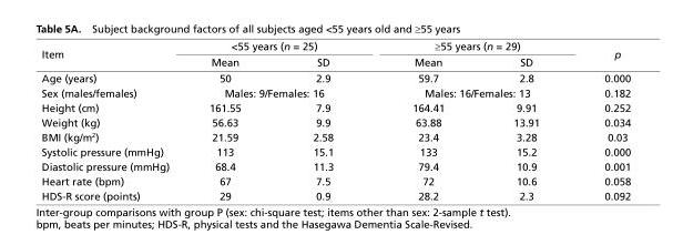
<table><thead><tr><td rowspan="2">Item</td><td colspan="2">&lt;55 years (n = 25)</td><td colspan="2">≥55 years (n = 29)</td><td rowspan="2">p</td></tr><tr><td>Mean</td><td>SD</td><td>Mean</td><td>SD</td></tr></thead><tbody><tr><td>Age (years)</td><td>50</td><td>2.9</td><td>59.7</td><td>2.8</td><td>0.000</td></tr><tr><td>Sex (males/females)</td><td colspan="2">Males: 9/Females: 16</td><td colspan="2">Males: 16/Females: 13</td><td>0.182</td></tr><tr><td>Height (cm)</td><td>161.55</td><td>7.9</td><td>164.41</td><td>9.91</td><td>0.252</td></tr><tr><td>Weight (kg)</td><td>56.63</td><td>9.9</td><td>63.88</td><td>13.91</td><td>0.034</td></tr><tr><td>BMI (kg/m<sup>2</sup>)</td><td>21.59</td><td>2.58</td><td>23.4</td><td>3.28</td><td>0.03</td></tr><tr><td>Systolic pressure (mmHg)</td><td>113</td><td>15.1</td><td>133</td><td>15.2</td><td>0.000</td></tr><tr><td>Diastolic pressure (mmHg)</td><td>68.4</td><td>11.3</td><td>79.4</td><td>10.9</td><td>0.001</td></tr><tr><td>Heart rate (bpm)</td><td>67</td><td>7.5</td><td>72</td><td>10.6</td><td>0.058</td></tr><tr><td>HDS-R score (points)</td><td>29</td><td>0.9</td><td>28.2</td><td>2.3</td><td>0.092</td></tr></tbody></table>